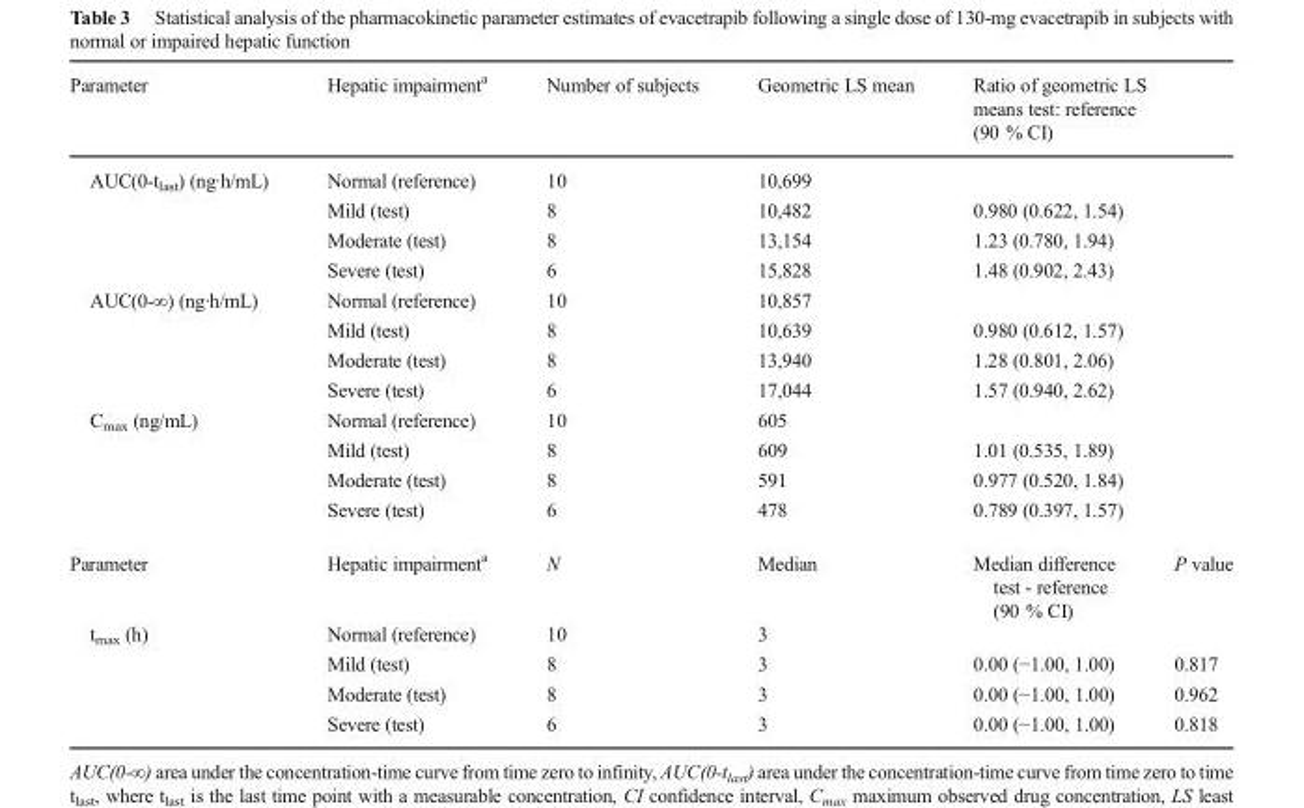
<table><thead><tr><td>Parameter</td><td>Hepatic impairment<sup>a</sup></td><td>Number of subjects</td><td>Geometric LS mean</td><td colspan="2">Ratio of geometric LS means test: reference (90 % CI)</td></tr></thead><tbody><tr><td rowspan="4">AUC(0-t<sub>last</sub>) (ng·h/mL)</td><td>Normal (reference)</td><td>10</td><td>10,699</td><td colspan="2"></td></tr><tr><td>Mild (test)</td><td>8</td><td>10,482</td><td colspan="2">0.980 (0.622, 1.54)</td></tr><tr><td>Moderate (test)</td><td>8</td><td>13,154</td><td colspan="2">1.23 (0.780, 1.94)</td></tr><tr><td>Severe (test)</td><td>6</td><td>15,828</td><td colspan="2">1.48 (0.902, 2.43)</td></tr><tr><td rowspan="4">AUC(0-∞) (ng·h/mL)</td><td>Normal (reference)</td><td>10</td><td>10,857</td><td colspan="2"></td></tr><tr><td>Mild (test)</td><td>8</td><td>10,639</td><td colspan="2">0.980 (0.612, 1.57)</td></tr><tr><td>Moderate (test)</td><td>8</td><td>13,940</td><td colspan="2">1.28 (0.801, 2.06)</td></tr><tr><td>Severe (test)</td><td>6</td><td>17,044</td><td colspan="2">1.57 (0.940, 2.62)</td></tr><tr><td rowspan="4">C<sub>max</sub> (ng/mL)</td><td>Normal (reference)</td><td>10</td><td>605</td><td colspan="2"></td></tr><tr><td>Mild (test)</td><td>8</td><td>609</td><td colspan="2">1.01 (0.535, 1.89)</td></tr><tr><td>Moderate (test)</td><td>8</td><td>591</td><td colspan="2">0.977 (0.520, 1.84)</td></tr><tr><td>Severe (test)</td><td>6</td><td>478</td><td colspan="2">0.789 (0.397, 1.57)</td></tr><tr><td>Parameter</td><td>Hepatic impairment<sup>a</sup></td><td>N</td><td>Median</td><td>Median difference test - reference (90 % CI)</td><td>P value</td></tr><tr><td rowspan="4">t<sub>max</sub> (h)</td><td>Normal (reference)</td><td>10</td><td>3</td><td></td><td></td></tr><tr><td>Mild (test)</td><td>8</td><td>3</td><td>0.00 (−1.00, 1.00)</td><td>0.817</td></tr><tr><td>Moderate (test)</td><td>8</td><td>3</td><td>0.00 (−1.00, 1.00)</td><td>0.962</td></tr><tr><td>Severe (test)</td><td>6</td><td>3</td><td>0.00 (−1.00, 1.00)</td><td>0.818</td></tr></tbody></table>